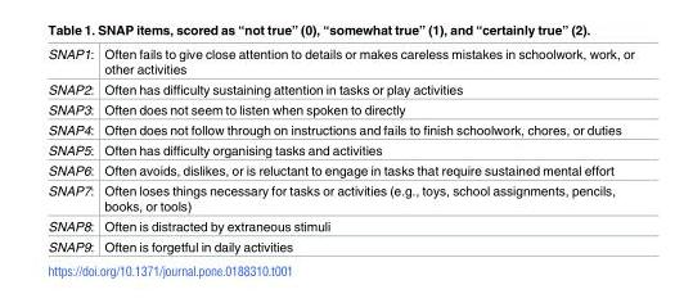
<table><tbody><tr><td>SNAP1:</td><td>Often fails to give close attention to details or makes careless mistakes in schoolwork, work, or other activities</td></tr><tr><td>SNAP2:</td><td>Often has difficulty sustaining attention in tasks or play activities</td></tr><tr><td>SNAP3:</td><td>Often does not seem to listen when spoken to directly</td></tr><tr><td>SNAP4:</td><td>Often does not follow through on instructions and fails to finish schoolwork, chores, or duties</td></tr><tr><td>SNAP5:</td><td>Often has difficulty organising tasks and activities</td></tr><tr><td>SNAP6:</td><td>Often avoids, dislikes, or is reluctant to engage in tasks that require sustained mental effort</td></tr><tr><td>SNAP7:</td><td>Often loses things necessary for tasks or activities (e.g., toys, school assignments, pencils, books, or tools)</td></tr><tr><td>SNAP8:</td><td>Often is distracted by extraneous stimuli</td></tr><tr><td>SNAP9:</td><td>Often is forgetful in daily activities</td></tr></tbody></table>